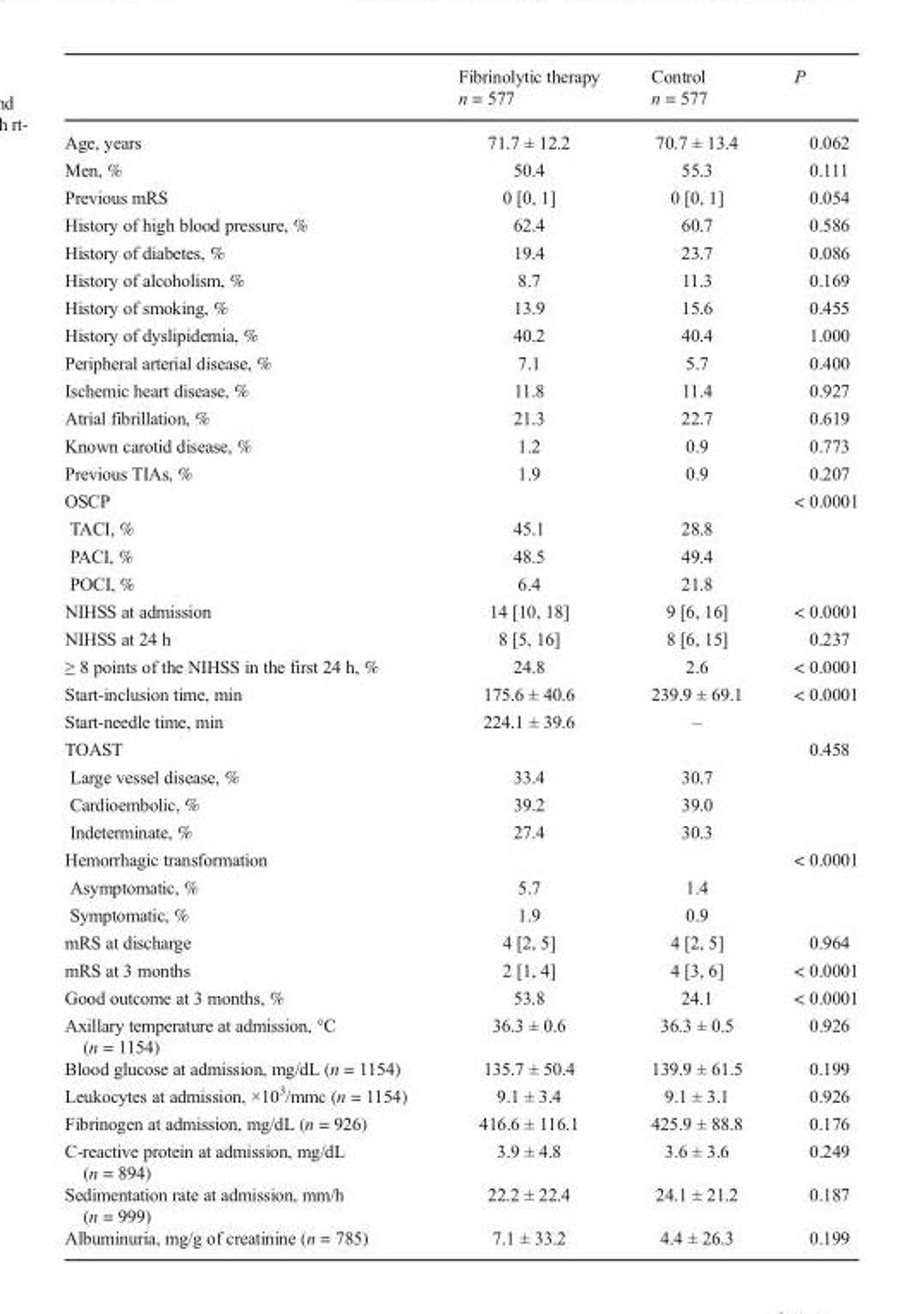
<table><thead><tr><td></td><td>Fibrinolytic therapy n = 577</td><td>Control n = 577</td><td>P</td></tr></thead><tbody><tr><td>Age, years</td><td>71.7 ± 12.2</td><td>70.7 ± 13.4</td><td>0.062</td></tr><tr><td>Men, %</td><td>50.4</td><td>55.3</td><td>0.111</td></tr><tr><td>Previous mRS</td><td>0 [0, 1]</td><td>0 [0, 1]</td><td>0.054</td></tr><tr><td>History of high blood pressure, %</td><td>62.4</td><td>60.7</td><td>0.586</td></tr><tr><td>History of diabetes, %</td><td>19.4</td><td>23.7</td><td>0.086</td></tr><tr><td>History of alcoholism, %</td><td>8.7</td><td>11.3</td><td>0.169</td></tr><tr><td>History of smoking, %</td><td>13.9</td><td>15.6</td><td>0.455</td></tr><tr><td>History of dyslipidemia, %</td><td>40.2</td><td>40.4</td><td>1.000</td></tr><tr><td>Peripheral arterial disease, %</td><td>7.1</td><td>5.7</td><td>0.400</td></tr><tr><td>Ischemic heart disease, %</td><td>11.8</td><td>11.4</td><td>0.927</td></tr><tr><td>Atrial fibrillation, %</td><td>21.3</td><td>22.7</td><td>0.619</td></tr><tr><td>Known carotid disease, %</td><td>1.2</td><td>0.9</td><td>0.773</td></tr><tr><td>Previous TIAs, %</td><td>1.9</td><td>0.9</td><td>0.207</td></tr><tr><td>OSCP</td><td></td><td></td><td>&lt; 0.0001</td></tr><tr><td>TACI, %</td><td>45.1</td><td>28.8</td><td></td></tr><tr><td>PACI, %</td><td>48.5</td><td>49.4</td><td></td></tr><tr><td>POCI, %</td><td>6.4</td><td>21.8</td><td></td></tr><tr><td>NIHSS at admission</td><td>14 [10, 18]</td><td>9 [6, 16]</td><td>&lt; 0.0001</td></tr><tr><td>NIHSS at 24 h</td><td>8 [5, 16]</td><td>8 [6, 15]</td><td>0.237</td></tr><tr><td>≥ 8 points of the NIHSS in the first 24 h, %</td><td>24.8</td><td>2.6</td><td>&lt; 0.0001</td></tr><tr><td>Start-inclusion time, min</td><td>175.6 ± 40.6</td><td>239.9 ± 69.1</td><td>&lt; 0.0001</td></tr><tr><td>Start-needle time, min</td><td>224.1 ± 39.6</td><td>–</td><td></td></tr><tr><td>TOAST</td><td></td><td></td><td>0.458</td></tr><tr><td>Large vessel disease, %</td><td>33.4</td><td>30.7</td><td></td></tr><tr><td>Cardioembolic, %</td><td>39.2</td><td>39.0</td><td></td></tr><tr><td>Indeterminate, %</td><td>27.4</td><td>30.3</td><td></td></tr><tr><td>Hemorrhagic transformation</td><td></td><td></td><td>&lt; 0.0001</td></tr><tr><td>Asymptomatic, %</td><td>5.7</td><td>1.4</td><td></td></tr><tr><td>Symptomatic, %</td><td>1.9</td><td>0.9</td><td></td></tr><tr><td>mRS at discharge</td><td>4 [2, 5]</td><td>4 [2, 5]</td><td>0.964</td></tr><tr><td>mRS at 3 months</td><td>2 [1, 4]</td><td>4 [3, 6]</td><td>&lt; 0.0001</td></tr><tr><td>Good outcome at 3 months, %</td><td>53.8</td><td>24.1</td><td>&lt; 0.0001</td></tr><tr><td>Axillary temperature at admission, °C (n = 1154)</td><td>36.3 ± 0.6</td><td>36.3 ± 0.5</td><td>0.926</td></tr><tr><td>Blood glucose at admission, mg/dL (n = 1154)</td><td>135.7 ± 50.4</td><td>139.9 ± 61.5</td><td>0.199</td></tr><tr><td>Leukocytes at admission, ×10<sup>3</sup>/mmc (n = 1154)</td><td>9.1 ± 3.4</td><td>9.1 ± 3.1</td><td>0.926</td></tr><tr><td>Fibrinogen at admission, mg/dL (n = 926)</td><td>416.6 ± 116.1</td><td>425.9 ± 88.8</td><td>0.176</td></tr><tr><td>C-reactive protein at admission, mg/dL (n = 894)</td><td>3.9 ± 4.8</td><td>3.6 ± 3.6</td><td>0.249</td></tr><tr><td>Sedimentation rate at admission, mm/h (n = 999)</td><td>22.2 ± 22.4</td><td>24.1 ± 21.2</td><td>0.187</td></tr><tr><td>Albuminuria, mg/g of creatinine (n = 785)</td><td>7.1 ± 33.2</td><td>4.4 ± 26.3</td><td>0.199</td></tr></tbody></table>